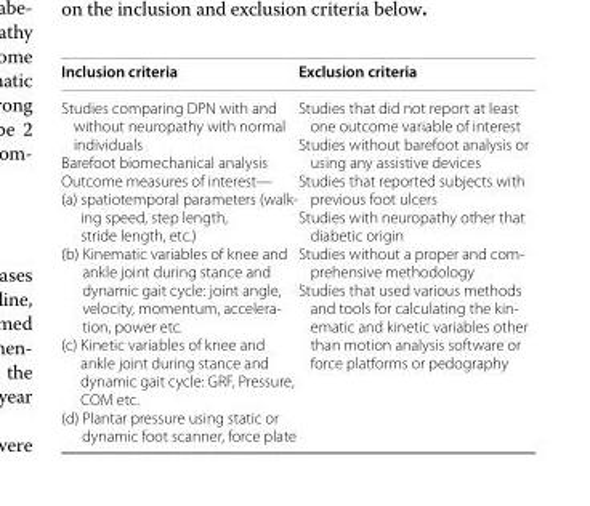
<table><thead><tr><td>Inclusion criteria</td><td>Exclusion criteria</td></tr></thead><tbody><tr><td>Studies comparing DPN with and without neuropathy with normal individuals Barefoot biomechanical analysis Outcome measures of interest— (a) spatiotemporal parameters (walk- ing speed, step length, stride length, etc.) (b) Kinematic variables of knee and ankle joint during stance and dynamic gait cycle: joint angle, velocity, momentum, accelera- tion, power etc. (c) Kinetic variables of knee and ankle joint during stance and dynamic gait cycle: GRF, Pressure, COM etc. (d) Plantar pressure using static or dynamic foot scanner, force plate</td><td>Studies that did not report at least one outcome variable of interest Studies without barefoot analysis or using any assistive devices Studies that reported subjects with previous foot ulcers Studies with neuropathy other that diabetic origin Studies without a proper and com- prehensive methodology Studies that used various methods and tools for calculating the kin- ematic and kinetic variables other than motion analysis software or force platforms or pedography</td></tr></tbody></table>